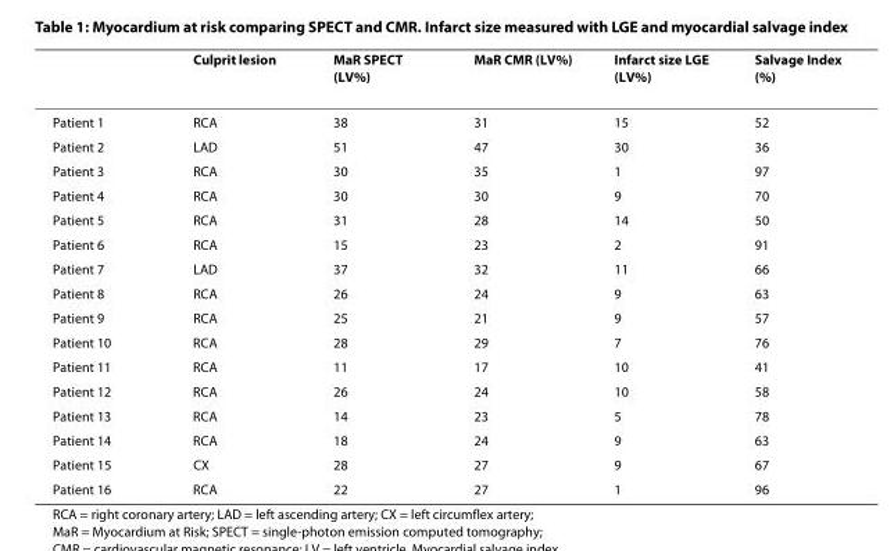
<table><thead><tr><td></td><td>Culprit lesion</td><td>MaR SPECT (LV%)</td><td>MaR CMR (LV%)</td><td>Infarct size LGE (LV%)</td><td>Salvage Index (%)</td></tr></thead><tbody><tr><td>Patient 1</td><td>RCA</td><td>38</td><td>31</td><td>15</td><td>52</td></tr><tr><td>Patient 2</td><td>LAD</td><td>51</td><td>47</td><td>30</td><td>36</td></tr><tr><td>Patient 3</td><td>RCA</td><td>30</td><td>35</td><td>1</td><td>97</td></tr><tr><td>Patient 4</td><td>RCA</td><td>30</td><td>30</td><td>9</td><td>70</td></tr><tr><td>Patient 5</td><td>RCA</td><td>31</td><td>28</td><td>14</td><td>50</td></tr><tr><td>Patient 6</td><td>RCA</td><td>15</td><td>23</td><td>2</td><td>91</td></tr><tr><td>Patient 7</td><td>LAD</td><td>37</td><td>32</td><td>11</td><td>66</td></tr><tr><td>Patient 8</td><td>RCA</td><td>26</td><td>24</td><td>9</td><td>63</td></tr><tr><td>Patient 9</td><td>RCA</td><td>25</td><td>21</td><td>9</td><td>57</td></tr><tr><td>Patient 10</td><td>RCA</td><td>28</td><td>29</td><td>7</td><td>76</td></tr><tr><td>Patient 11</td><td>RCA</td><td>11</td><td>17</td><td>10</td><td>41</td></tr><tr><td>Patient 12</td><td>RCA</td><td>26</td><td>24</td><td>10</td><td>58</td></tr><tr><td>Patient 13</td><td>RCA</td><td>14</td><td>23</td><td>5</td><td>78</td></tr><tr><td>Patient 14</td><td>RCA</td><td>18</td><td>24</td><td>9</td><td>63</td></tr><tr><td>Patient 15</td><td>CX</td><td>28</td><td>27</td><td>9</td><td>67</td></tr><tr><td>Patient 16</td><td>RCA</td><td>22</td><td>27</td><td>1</td><td>96</td></tr></tbody></table>